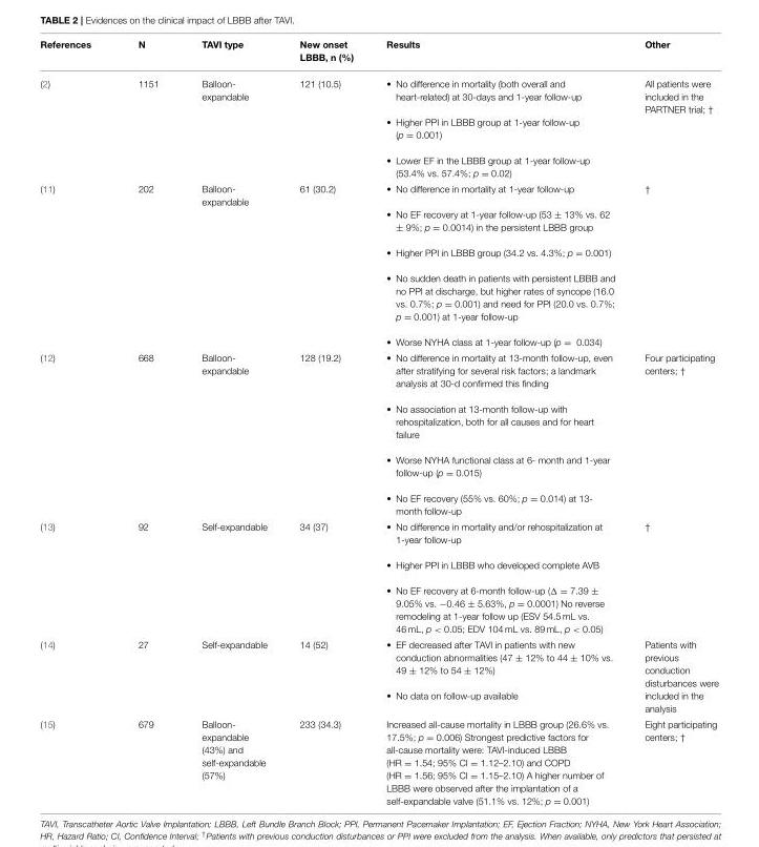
<table><thead><tr><td>References</td><td>N</td><td>TAVI type</td><td>New onset LBBB, n (%)</td><td>Results</td><td>Other</td></tr></thead><tbody><tr><td>(2)</td><td>1151</td><td>Balloon- expandable</td><td>121 (10.5)</td><td>• No difference in mortality (both overall and heart-related) at 30-days and 1-year follow-up • Higher PPI in LBBB group at 1-year follow-up (p = 0.001) • Lower EF in the LBBB group at 1-year follow-up (53.4% vs. 57.4%; p = 0.02)</td><td>All patients were included in the PARTNER trial; <sup>†</sup></td></tr><tr><td>(11)</td><td>202</td><td>Balloon- expandable</td><td>61 (30.2)</td><td>• No difference in mortality at 1-year follow-up • No EF recovery at 1-year follow-up (53 ± 13% vs. 62 ± 9%; p = 0.0014) in the persistent LBBB group • Higher PPI in LBBB group (34.2 vs. 4.3%; p = 0.001) • No sudden death in patients with persistent LBBB and no PPI at discharge, but higher rates of syncope (16.0 vs. 0.7%; p = 0.001) and need for PPI (20.0 vs. 0.7%; p = 0.001) at 1-year follow-up • Worse NYHA class at 1-year follow-up (p = 0.034)</td><td><sup>†</sup></td></tr><tr><td>(12)</td><td>668</td><td>Balloon- expandable</td><td>128 (19.2)</td><td>• No difference in mortality at 13-month follow-up, even after stratifying for several risk factors; a landmark analysis at 30-d confirmed this finding • No association at 13-month follow-up with rehospitalization, both for all causes and for heart failure • Worse NYHA functional class at 6- month and 1-year follow-up (p = 0.015) • No EF recovery (55% vs. 60%; p = 0.014) at 13- month follow-up</td><td>Four participating centers; <sup>†</sup></td></tr><tr><td>(13)</td><td>92</td><td>Self-expandable</td><td>34 (37)</td><td>• No difference in mortality and/or rehospitalization at 1-year follow-up • Higher PPI in LBBB who developed complete AVB • No EF recovery at 6-month follow-up (� = 7.39 ± 9.05% vs. −0.46 ± 5.63%, p = 0.0001) No reverse remodeling at 1-year follow up (ESV 54.5 mL vs. 46 mL, p &lt; 0.05; EDV 104 mL vs. 89 mL, p &lt; 0.05)</td><td><sup>†</sup></td></tr><tr><td>(14)</td><td>27</td><td>Self-expandable</td><td>14 (52)</td><td>• EF decreased after TAVI in patients with new conduction abnormalities (47 ± 12% to 44 ± 10% vs. 49 ± 12% to 54 ± 12%) • No data on follow-up available</td><td>Patients with previous conduction disturbances were included in the analysis</td></tr><tr><td>(15)</td><td>679</td><td>Balloon- expandable (43%) and self-expandable (57%)</td><td>233 (34.3)</td><td>Increased all-cause mortality in LBBB group (26.6% vs. 17.5%; p = 0.006) Strongest predictive factors for all-cause mortality were: TAVI-induced LBBB (HR = 1.54; 95% CI = 1.12–2.10) and COPD (HR = 1.56; 95% CI = 1.15–2.10) A higher number of LBBB were observed after the implantation of a self-expandable valve (51.1% vs. 12%; p = 0.001)</td><td>Eight participating centers; <sup>†</sup></td></tr></tbody></table>